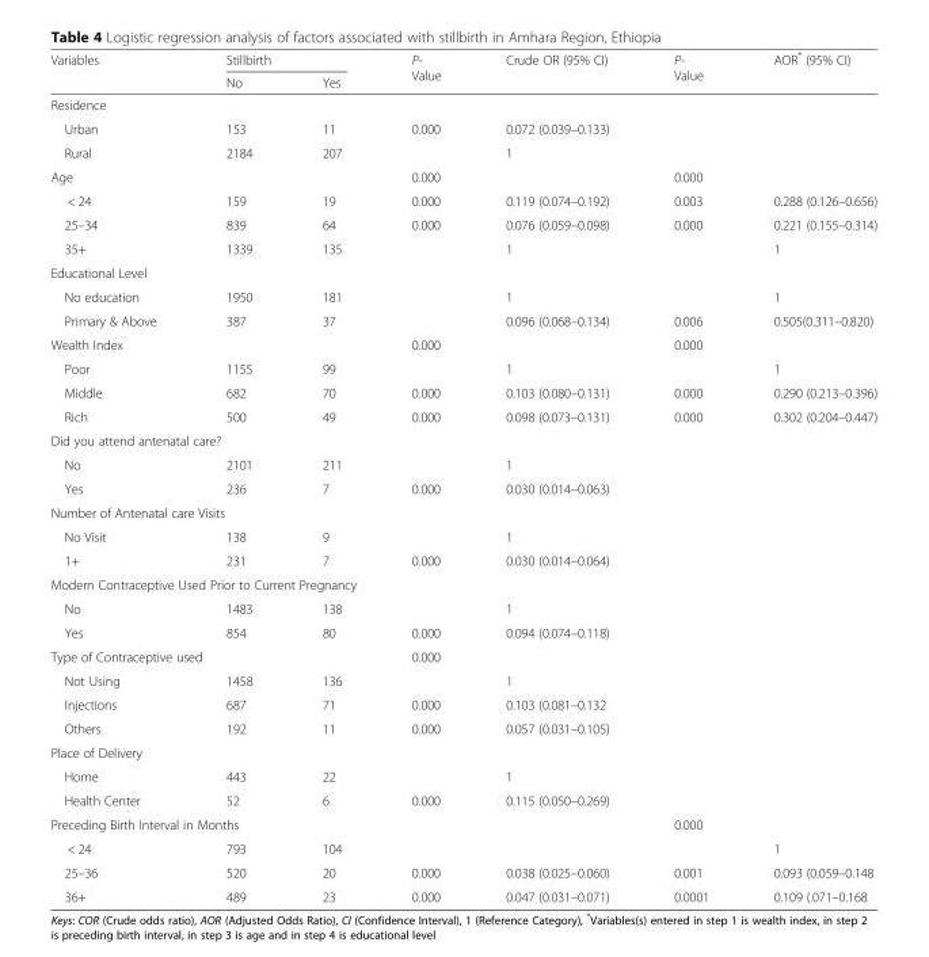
<table><thead><tr><td rowspan="2">Variables</td><td colspan="2">Stillbirth</td><td rowspan="2">P- Value</td><td rowspan="2">Crude OR (95% CI)</td><td rowspan="2">P- Value</td><td rowspan="2">AOR* (95% CI)</td></tr><tr><td>No</td><td>Yes</td></tr></thead><tbody><tr><td colspan="7">Residence</td></tr><tr><td>Urban</td><td>153</td><td>11</td><td>0.000</td><td>0.072 (0.039–0.133)</td><td></td><td></td></tr><tr><td>Rural</td><td>2184</td><td>207</td><td></td><td>1</td><td></td><td></td></tr><tr><td>Age</td><td></td><td></td><td>0.000</td><td></td><td>0.000</td><td></td></tr><tr><td>&lt; 24</td><td>159</td><td>19</td><td>0.000</td><td>0.119 (0.074–0.192)</td><td>0.003</td><td>0.288 (0.126–0.656)</td></tr><tr><td>25–34</td><td>839</td><td>64</td><td>0.000</td><td>0.076 (0.059–0.098)</td><td>0.000</td><td>0.221 (0.155–0.314)</td></tr><tr><td>35+</td><td>1339</td><td>135</td><td></td><td>1</td><td></td><td>1</td></tr><tr><td colspan="7">Educational Level</td></tr><tr><td>No education</td><td>1950</td><td>181</td><td></td><td>1</td><td></td><td>1</td></tr><tr><td>Primary &amp; Above</td><td>387</td><td>37</td><td></td><td>0.096 (0.068–0.134)</td><td>0.006</td><td>0.505(0.311–0.820)</td></tr><tr><td>Wealth Index</td><td></td><td></td><td>0.000</td><td></td><td>0.000</td><td></td></tr><tr><td>Poor</td><td>1155</td><td>99</td><td></td><td>1</td><td></td><td>1</td></tr><tr><td>Middle</td><td>682</td><td>70</td><td>0.000</td><td>0.103 (0.080–0.131)</td><td>0.000</td><td>0.290 (0.213–0.396)</td></tr><tr><td>Rich</td><td>500</td><td>49</td><td>0.000</td><td>0.098 (0.073–0.131)</td><td>0.000</td><td>0.302 (0.204–0.447)</td></tr><tr><td colspan="7">Did you attend antenatal care?</td></tr><tr><td>No</td><td>2101</td><td>211</td><td></td><td>1</td><td></td><td></td></tr><tr><td>Yes</td><td>236</td><td>7</td><td>0.000</td><td>0.030 (0.014–0.063)</td><td></td><td></td></tr><tr><td colspan="7">Number of Antenatal care Visits</td></tr><tr><td>No Visit</td><td>138</td><td>9</td><td></td><td>1</td><td></td><td></td></tr><tr><td>1+</td><td>231</td><td>7</td><td>0.000</td><td>0.030 (0.014–0.064)</td><td></td><td></td></tr><tr><td colspan="7">Modern Contraceptive Used Prior to Current Pregnancy</td></tr><tr><td>No</td><td>1483</td><td>138</td><td></td><td>1</td><td></td><td></td></tr><tr><td>Yes</td><td>854</td><td>80</td><td>0.000</td><td>0.094 (0.074–0.118)</td><td></td><td></td></tr><tr><td colspan="3">Type of Contraceptive used</td><td>0.000</td><td></td><td></td><td></td></tr><tr><td>Not Using</td><td>1458</td><td>136</td><td></td><td>1</td><td></td><td></td></tr><tr><td>Injections</td><td>687</td><td>71</td><td>0.000</td><td>0.103 (0.081–0.132</td><td></td><td></td></tr><tr><td>Others</td><td>192</td><td>11</td><td>0.000</td><td>0.057 (0.031–0.105)</td><td></td><td></td></tr><tr><td colspan="7">Place of Delivery</td></tr><tr><td>Home</td><td>443</td><td>22</td><td></td><td>1</td><td></td><td></td></tr><tr><td>Health Center</td><td>52</td><td>6</td><td>0.000</td><td>0.115 (0.050–0.269)</td><td></td><td></td></tr><tr><td colspan="3">Preceding Birth Interval in Months</td><td></td><td></td><td>0.000</td><td></td></tr><tr><td>&lt; 24</td><td>793</td><td>104</td><td></td><td></td><td></td><td>1</td></tr><tr><td>25–36</td><td>520</td><td>20</td><td>0.000</td><td>0.038 (0.025–0.060)</td><td>0.001</td><td>0.093 (0.059–0.148</td></tr><tr><td>36+</td><td>489</td><td>23</td><td>0.000</td><td>0.047 (0.031–0.071)</td><td>0.0001</td><td>0.109 (.071–0.168</td></tr></tbody></table>